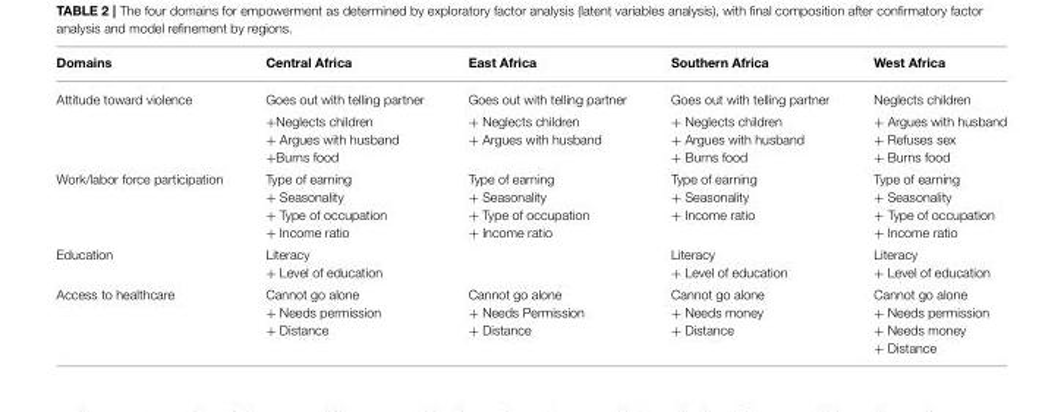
<table><thead><tr><td>Domains</td><td>Central Africa</td><td>East Africa</td><td>Southern Africa</td><td>West Africa</td></tr></thead><tbody><tr><td rowspan="2">Attitude toward violence</td><td>Goes out with telling partner</td><td>Goes out with telling partner</td><td>Goes out with telling partner</td><td>Neglects children</td></tr><tr><td>+Neglects children + Argues with husband +Burns food</td><td>+ Neglects children + Argues with husband</td><td>+ Neglects children + Argues with husband + Burns food</td><td>+ Argues with husband + Refuses sex + Burns food</td></tr><tr><td>Work/labor force participation</td><td>Type of earning + Seasonality + Type of occupation + Income ratio</td><td>Type of earning + Seasonality + Type of occupation + Income ratio</td><td>Type of earning + Seasonality + Income ratio</td><td>Type of earning + Seasonality + Type of occupation + Income ratio</td></tr><tr><td>Education</td><td>Literacy + Level of education</td><td></td><td>Literacy + Level of education</td><td>Literacy + Level of education</td></tr><tr><td>Access to healthcare</td><td>Cannot go alone + Needs permission + Distance</td><td>Cannot go alone + Needs Permission + Distance</td><td>Cannot go alone + Needs money + Distance</td><td>Cannot go alone + Needs permission + Needs money + Distance</td></tr></tbody></table>